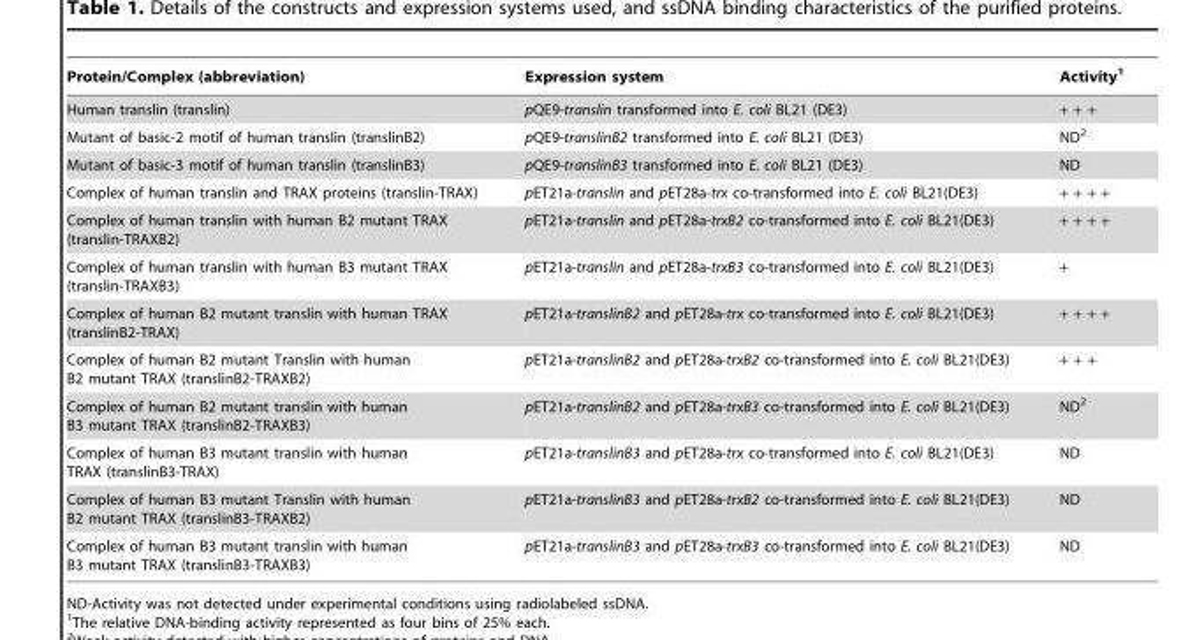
<table><thead><tr><td>Protein/Complex (abbreviation)</td><td>Expression system</td><td>Activity<sup>1</sup></td></tr></thead><tbody><tr><td>Human translin (translin)</td><td>pQE9-translin transformed into E. coli BL21 (DE3)</td><td>+ + +</td></tr><tr><td>Mutant of basic-2 motif of human translin (translinB2)</td><td>pQE9-translinB2 transformed into E. coli BL21 (DE3)</td><td>ND<sup>2</sup></td></tr><tr><td>Mutant of basic-3 motif of human translin (translinB3)</td><td>pQE9-translinB3 transformed into E. coli BL21 (DE3)</td><td>ND</td></tr><tr><td>Complex of human translin and TRAX proteins (translin-TRAX)</td><td>pET21a-translin and pET28a-trx co-transformed into E. coli BL21(DE3)</td><td>+ + + +</td></tr><tr><td>Complex of human translin with human B2 mutant TRAX (translin-TRAXB2)</td><td>pET21a-translin and pET28a-trxB2 co-transformed into E. coli BL21(DE3)</td><td>+ + + +</td></tr><tr><td>Complex of human translin with human B3 mutant TRAX (translin-TRAXB3)</td><td>pET21a-translin and pET28a-trxB3 co-transformed into E. coli BL21(DE3)</td><td>+</td></tr><tr><td>Complex of human B2 mutant translin with human TRAX (translinB2-TRAX)</td><td>pET21a-translinB2 and pET28a-trx co-transformed into E. coli BL21(DE3)</td><td>+ + + +</td></tr><tr><td>Complex of human B2 mutant Translin with human B2 mutant TRAX (translinB2-TRAXB2)</td><td>pET21a-translinB2 and pET28a-trxB2 co-transformed into E. coli BL21(DE3)</td><td>+ + +</td></tr><tr><td>Complex of human B2 mutant translin with human B3 mutant TRAX (translinB2-TRAXB3)</td><td>pET21a-translinB2 and pET28a-trxB3 co-transformed into E. coli BL21(DE3)</td><td>ND<sup>2</sup></td></tr><tr><td>Complex of human B3 mutant translin with human TRAX (translinB3-TRAX)</td><td>pET21a-translinB3 and pET28a-trx co-transformed into E. coli BL21(DE3)</td><td>ND</td></tr><tr><td>Complex of human B3 mutant Translin with human B2 mutant TRAX (translinB3-TRAXB2)</td><td>pET21a-translinB3 and pET28a-trxB2 co-transformed into E. coli BL21(DE3)</td><td>ND</td></tr><tr><td>Complex of human B3 mutant translin with human B3 mutant TRAX (translinB3-TRAXB3)</td><td>pET21a-translinB3 and pET28a-trxB3 co-transformed into E. coli BL21(DE3)</td><td>ND</td></tr></tbody></table>